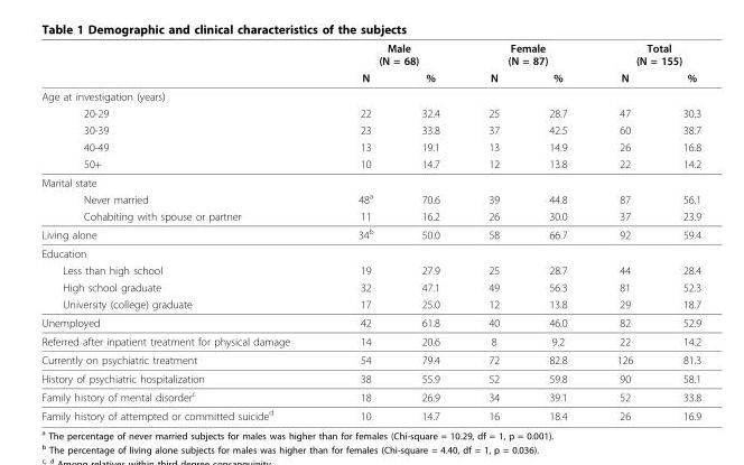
<table><thead><tr><td rowspan="2"></td><td colspan="2">Male (N = 68)</td><td colspan="2">Female (N = 87)</td><td colspan="2">Total (N = 155)</td></tr><tr><td>N</td><td>%</td><td>N</td><td>%</td><td>N</td><td>%</td></tr></thead><tbody><tr><td colspan="7">Age at investigation (years)</td></tr><tr><td>20-29</td><td>22</td><td>32.4</td><td>25</td><td>28.7</td><td>47</td><td>30.3</td></tr><tr><td>30-39</td><td>23</td><td>33.8</td><td>37</td><td>42.5</td><td>60</td><td>38.7</td></tr><tr><td>40-49</td><td>13</td><td>19.1</td><td>13</td><td>14.9</td><td>26</td><td>16.8</td></tr><tr><td>50+</td><td>10</td><td>14.7</td><td>12</td><td>13.8</td><td>22</td><td>14.2</td></tr><tr><td colspan="7">Marital state</td></tr><tr><td>Never married</td><td>48<sup>a</sup></td><td>70.6</td><td>39</td><td>44.8</td><td>87</td><td>56.1</td></tr><tr><td>Cohabiting with spouse or partner</td><td>11</td><td>16.2</td><td>26</td><td>30.0</td><td>37</td><td>23.9</td></tr><tr><td>Living alone</td><td>34<sup>b</sup></td><td>50.0</td><td>58</td><td>66.7</td><td>92</td><td>59.4</td></tr><tr><td colspan="7">Education</td></tr><tr><td>Less than high school</td><td>19</td><td>27.9</td><td>25</td><td>28.7</td><td>44</td><td>28.4</td></tr><tr><td>High school graduate</td><td>32</td><td>47.1</td><td>49</td><td>56.3</td><td>81</td><td>52.3</td></tr><tr><td>University (college) graduate</td><td>17</td><td>25.0</td><td>12</td><td>13.8</td><td>29</td><td>18.7</td></tr><tr><td>Unemployed</td><td>42</td><td>61.8</td><td>40</td><td>46.0</td><td>82</td><td>52.9</td></tr><tr><td>Referred after inpatient treatment for physical damage</td><td>14</td><td>20.6</td><td>8</td><td>9.2</td><td>22</td><td>14.2</td></tr><tr><td>Currently on psychiatric treatment</td><td>54</td><td>79.4</td><td>72</td><td>82.8</td><td>126</td><td>81.3</td></tr><tr><td>History of psychiatric hospitalization</td><td>38</td><td>55.9</td><td>52</td><td>59.8</td><td>90</td><td>58.1</td></tr><tr><td>Family history of mental disorder<sup>c</sup></td><td>18</td><td>26.9</td><td>34</td><td>39.1</td><td>52</td><td>33.8</td></tr><tr><td>Family history of attempted or committed suicide<sup>d</sup></td><td>10</td><td>14.7</td><td>16</td><td>18.4</td><td>26</td><td>16.9</td></tr></tbody></table>